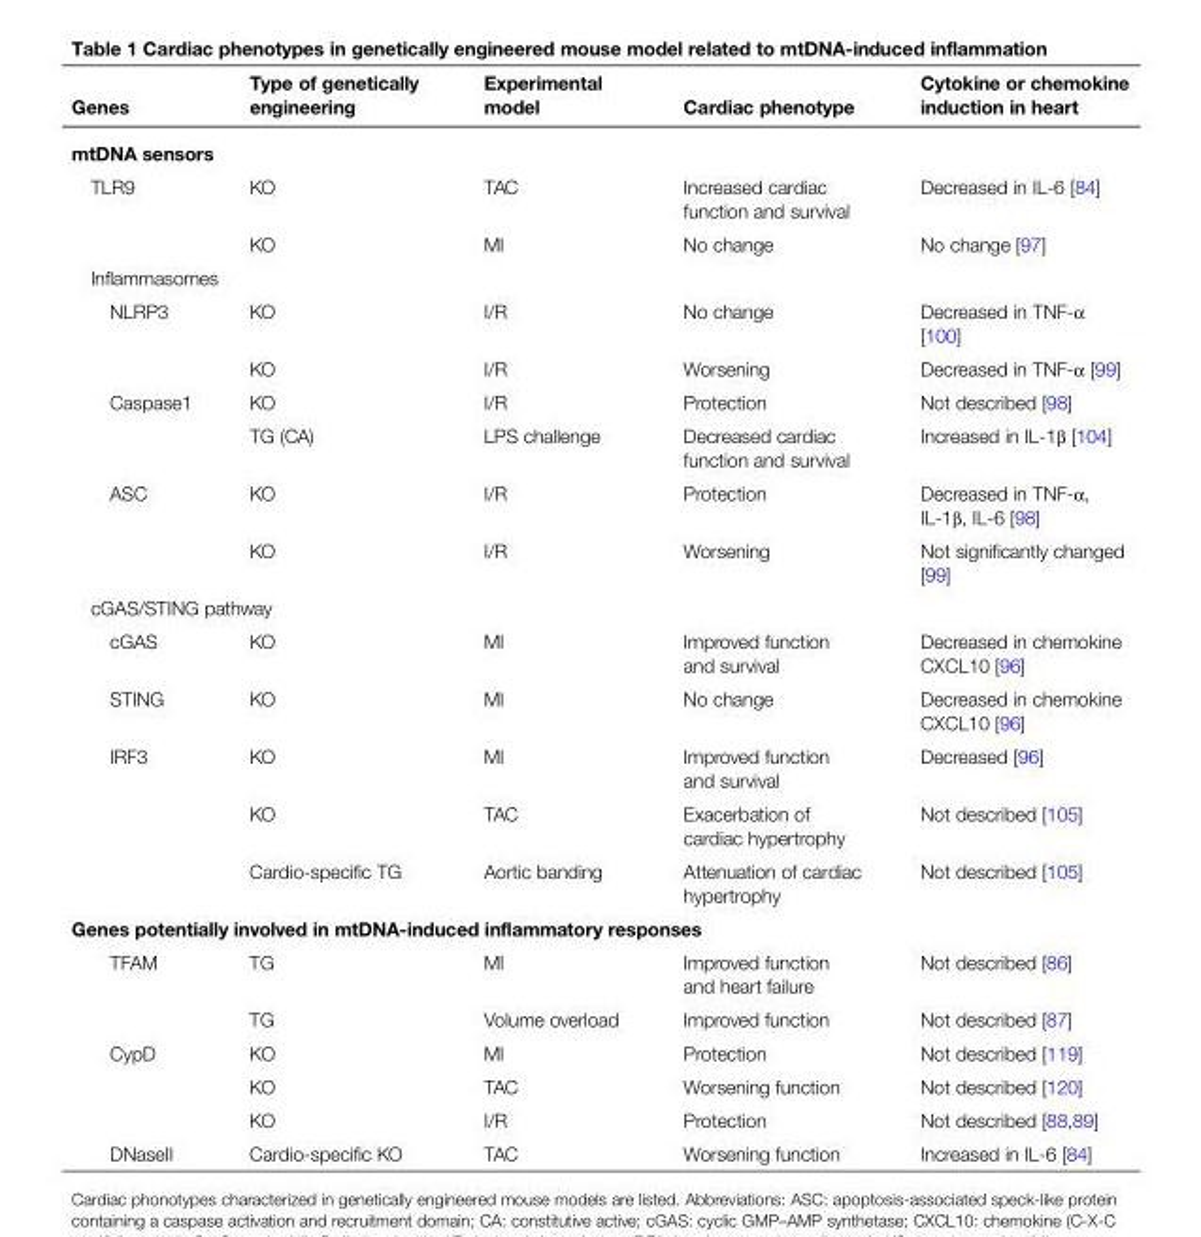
<table><thead><tr><td>Genes</td><td>Type of genetically engineering</td><td>Experimental model</td><td>Cardiac phenotype</td><td>Cytokine or chemokine induction in heart</td></tr></thead><tbody><tr><td colspan="5">mtDNA sensors</td></tr><tr><td rowspan="2">TLR9</td><td>KO</td><td>TAC</td><td>Increased cardiac function and survival</td><td>Decreased in IL-6 [84]</td></tr><tr><td>KO</td><td>MI</td><td>No change</td><td>No change [97]</td></tr><tr><td colspan="5">Inflammasomes</td></tr><tr><td rowspan="2">NLRP3</td><td>KO</td><td>I/R</td><td>No change</td><td>Decreased in TNF-α [100]</td></tr><tr><td>KO</td><td>I/R</td><td>Worsening</td><td>Decreased in TNF-α [99]</td></tr><tr><td rowspan="2">Caspase1</td><td>KO</td><td>I/R</td><td>Protection</td><td>Not described [98]</td></tr><tr><td>TG (CA)</td><td>LPS challenge</td><td>Decreased cardiac function and survival</td><td>Increased in IL-1β [104]</td></tr><tr><td rowspan="2">ASC</td><td>KO</td><td>I/R</td><td>Protection</td><td>Decreased in TNF-α, IL-1β, IL-6 [98]</td></tr><tr><td>KO</td><td>I/R</td><td>Worsening</td><td>Not significantly changed [99]</td></tr><tr><td colspan="5">cGAS/STING pathway</td></tr><tr><td>cGAS</td><td>KO</td><td>MI</td><td>Improved function and survival</td><td>Decreased in chemokine CXCL10 [96]</td></tr><tr><td>STING</td><td>KO</td><td>MI</td><td>No change</td><td>Decreased in chemokine CXCL10 [96]</td></tr><tr><td rowspan="3">IRF3</td><td>KO</td><td>MI</td><td>Improved function and survival</td><td>Decreased [96]</td></tr><tr><td>KO</td><td>TAC</td><td>Exacerbation of cardiac hypertrophy</td><td>Not described [105]</td></tr><tr><td>Cardio-specific TG</td><td>Aortic banding</td><td>Attenuation of cardiac hypertrophy</td><td>Not described [105]</td></tr><tr><td colspan="5">Genes potentially involved in mtDNA-induced inflammatory responses</td></tr><tr><td rowspan="2">TFAM</td><td>TG</td><td>MI</td><td>Improved function and heart failure</td><td>Not described [86]</td></tr><tr><td>TG</td><td>Volume overload</td><td>Improved function</td><td>Not described [87]</td></tr><tr><td rowspan="3">CypD</td><td>KO</td><td>MI</td><td>Protection</td><td>Not described [119]</td></tr><tr><td>KO</td><td>TAC</td><td>Worsening function</td><td>Not described [120]</td></tr><tr><td>KO</td><td>I/R</td><td>Protection</td><td>Not described [88,89]</td></tr><tr><td>DNaseII</td><td>Cardio-specific KO</td><td>TAC</td><td>Worsening function</td><td>Increased in IL-6 [84]</td></tr></tbody></table>